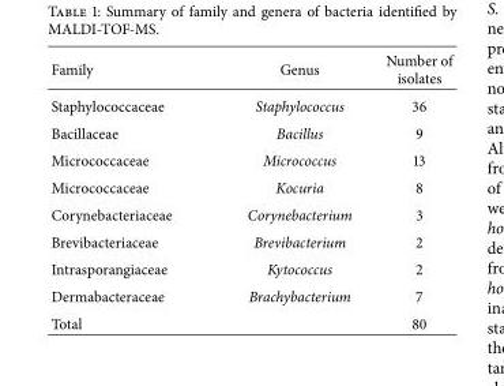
<table><thead><tr><td>Family</td><td>Genus</td><td>Number of isolates</td></tr></thead><tbody><tr><td>Staphylococcaceae</td><td>Staphylococcus</td><td>36</td></tr><tr><td>Bacillaceae</td><td>Bacillus</td><td>9</td></tr><tr><td>Micrococcaceae</td><td>Micrococcus</td><td>13</td></tr><tr><td>Micrococcaceae</td><td>Kocuria</td><td>8</td></tr><tr><td>Corynebacteriaceae</td><td>Corynebacterium</td><td>3</td></tr><tr><td>Brevibacteriaceae</td><td>Brevibacterium</td><td>2</td></tr><tr><td>Intrasporangiaceae</td><td>Kytococcus</td><td>2</td></tr><tr><td>Dermabacteraceae</td><td>Brachybacterium</td><td>7</td></tr><tr><td>Total</td><td></td><td>80</td></tr></tbody></table>